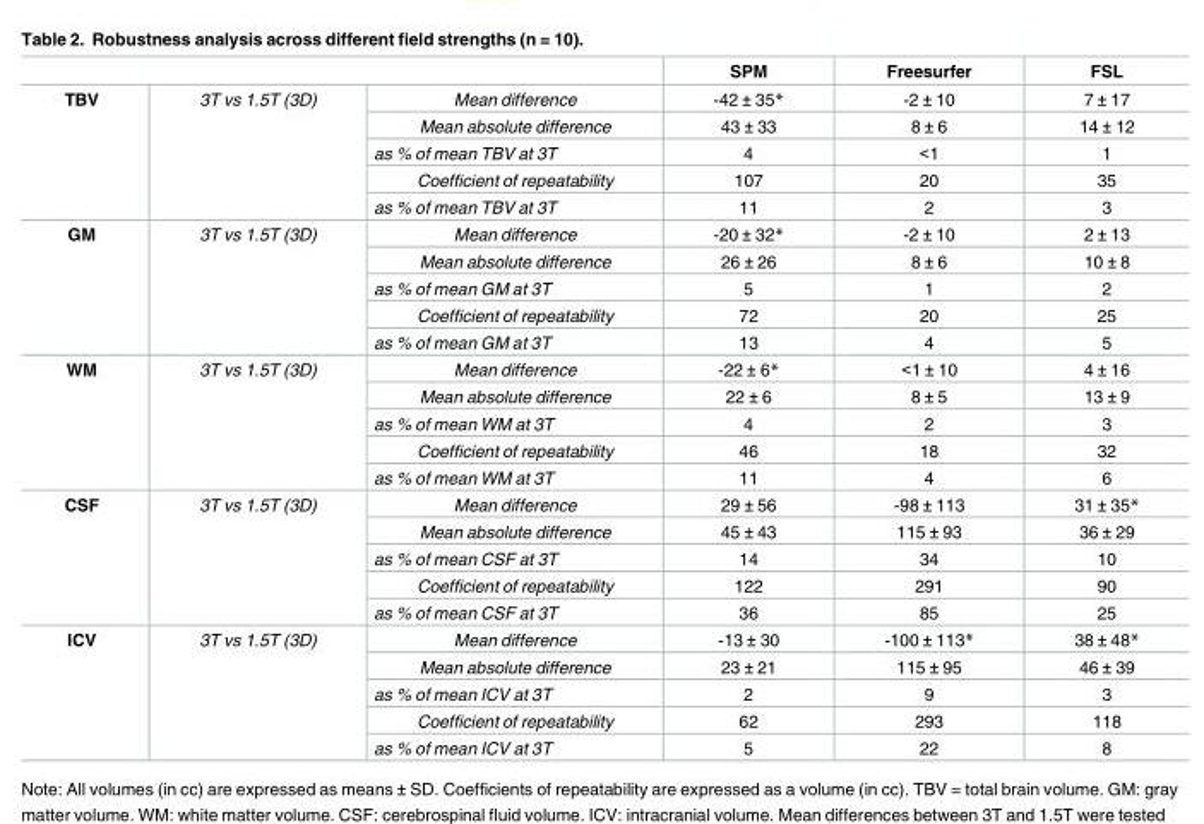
<table><thead><tr><td></td><td></td><td></td><td>SPM</td><td>Freesurfer</td><td>FSL</td></tr></thead><tbody><tr><td rowspan="5">TBV</td><td rowspan="5">3T vs 1.5T (3D)</td><td>Mean difference</td><td>-42 ± 35*</td><td>-2 ± 10</td><td>7 ± 17</td></tr><tr><td>Mean absolute difference</td><td>43 ± 33</td><td>8 ± 6</td><td>14 ± 12</td></tr><tr><td>as % of mean TBV at 3T</td><td>4</td><td>&lt;1</td><td>1</td></tr><tr><td>Coefficient of repeatability</td><td>107</td><td>20</td><td>35</td></tr><tr><td>as % of mean TBV at 3T</td><td>11</td><td>2</td><td>3</td></tr><tr><td rowspan="5">GM</td><td rowspan="5">3T vs 1.5T (3D)</td><td>Mean difference</td><td>-20 ± 32*</td><td>-2 ± 10</td><td>2 ± 13</td></tr><tr><td>Mean absolute difference</td><td>26 ± 26</td><td>8 ± 6</td><td>10 ± 8</td></tr><tr><td>as % of mean GM at 3T</td><td>5</td><td>1</td><td>2</td></tr><tr><td>Coefficient of repeatability</td><td>72</td><td>20</td><td>25</td></tr><tr><td>as % of mean GM at 3T</td><td>13</td><td>4</td><td>5</td></tr><tr><td rowspan="5">WM</td><td rowspan="5">3T vs 1.5T (3D)</td><td>Mean difference</td><td>-22 ± 6*</td><td>&lt;1 ± 10</td><td>4 ± 16</td></tr><tr><td>Mean absolute difference</td><td>22 ± 6</td><td>8 ± 5</td><td>13 ± 9</td></tr><tr><td>as % of mean WM at 3T</td><td>4</td><td>2</td><td>3</td></tr><tr><td>Coefficient of repeatability</td><td>46</td><td>18</td><td>32</td></tr><tr><td>as % of mean WM at 3T</td><td>11</td><td>4</td><td>6</td></tr><tr><td rowspan="5">CSF</td><td rowspan="5">3T vs 1.5T (3D)</td><td>Mean difference</td><td>29 ± 56</td><td>-98 ± 113</td><td>31 ± 35*</td></tr><tr><td>Mean absolute difference</td><td>45 ± 43</td><td>115 ± 93</td><td>36 ± 29</td></tr><tr><td>as % of mean CSF at 3T</td><td>14</td><td>34</td><td>10</td></tr><tr><td>Coefficient of repeatability</td><td>122</td><td>291</td><td>90</td></tr><tr><td>as % of mean CSF at 3T</td><td>36</td><td>85</td><td>25</td></tr><tr><td rowspan="5">ICV</td><td rowspan="5">3T vs 1.5T (3D)</td><td>Mean difference</td><td>-13 ± 30</td><td>-100 ± 113*</td><td>38 ± 48*</td></tr><tr><td>Mean absolute difference</td><td>23 ± 21</td><td>115 ± 95</td><td>46 ± 39</td></tr><tr><td>as % of mean ICV at 3T</td><td>2</td><td>9</td><td>3</td></tr><tr><td>Coefficient of repeatability</td><td>62</td><td>293</td><td>118</td></tr><tr><td>as % of mean ICV at 3T</td><td>5</td><td>22</td><td>8</td></tr></tbody></table>